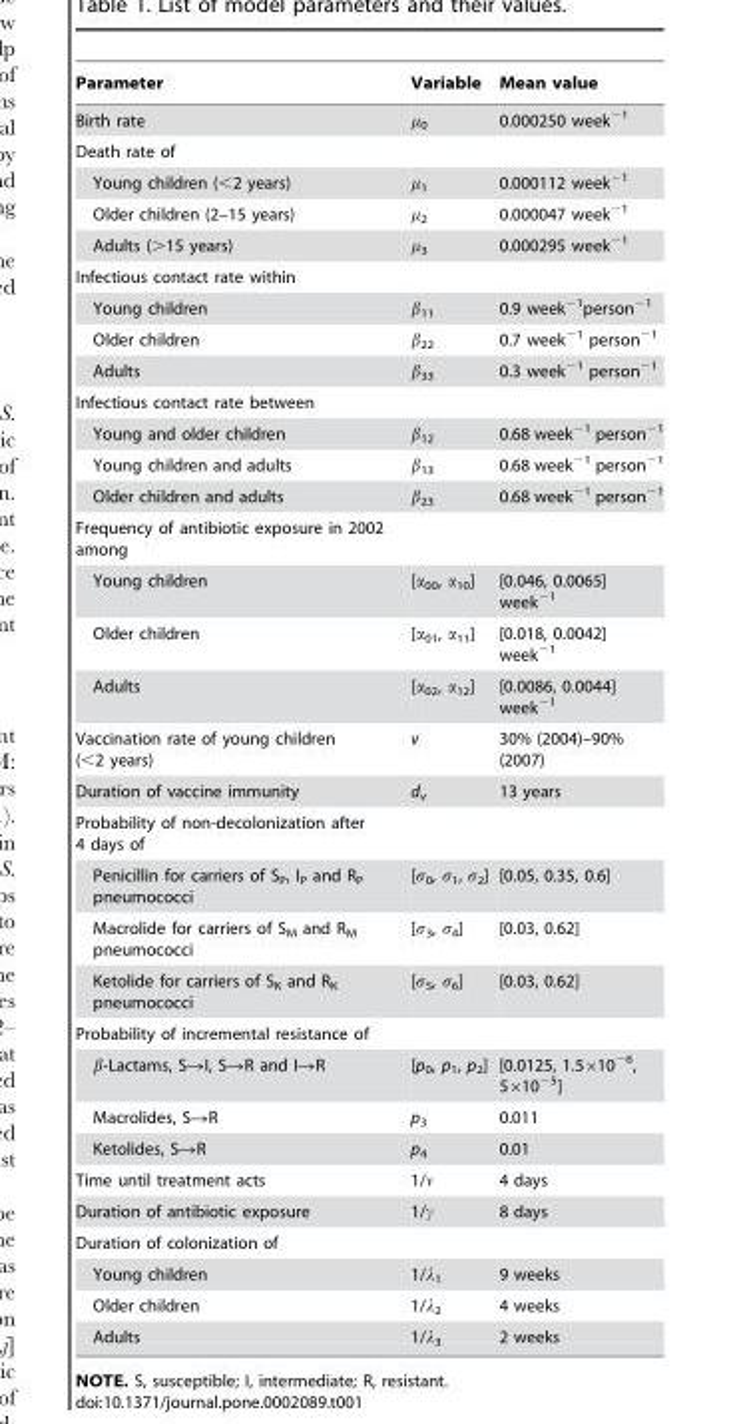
<table><thead><tr><td>Parameter</td><td>Variable</td><td>Mean value</td></tr></thead><tbody><tr><td>Birth rate</td><td>μ<sub>0</sub></td><td>0.000250 week<sup>−1</sup></td></tr><tr><td colspan="3">Death rate of</td></tr><tr><td>Young children (&lt;2 years)</td><td>μ<sub>1</sub></td><td>0.000112 week<sup>−1</sup></td></tr><tr><td>Older children (2–15 years)</td><td>μ<sub>2</sub></td><td>0.000047 week<sup>−1</sup></td></tr><tr><td>Adults (&gt;15 years)</td><td>μ<sub>3</sub></td><td>0.000295 week<sup>−1</sup></td></tr><tr><td colspan="3">Infectious contact rate within</td></tr><tr><td>Young children</td><td>β<sub>11</sub></td><td>0.9 week<sup>−1</sup>person<sup>−1</sup></td></tr><tr><td>Older children</td><td>β<sub>22</sub></td><td>0.7 week<sup>−1</sup> person<sup>−1</sup></td></tr><tr><td>Adults</td><td>β<sub>33</sub></td><td>0.3 week<sup>−1</sup> person<sup>−1</sup></td></tr><tr><td colspan="3">Infectious contact rate between</td></tr><tr><td>Young and older children</td><td>β<sub>12</sub></td><td>0.68 week<sup>−1</sup> person<sup>−1</sup></td></tr><tr><td>Young children and adults</td><td>β<sub>13</sub></td><td>0.68 week<sup>−1</sup> person<sup>−1</sup></td></tr><tr><td>Older children and adults</td><td>β<sub>23</sub></td><td>0.68 week<sup>−1</sup> person<sup>−1</sup></td></tr><tr><td colspan="3">Frequency of antibiotic exposure in 2002 among</td></tr><tr><td>Young children</td><td>[α<sub>00</sub>, α<sub>10</sub>]</td><td>[0.046, 0.0065] week<sup>−1</sup></td></tr><tr><td>Older children</td><td>[α<sub>01</sub>, α<sub>11</sub>]</td><td>[0.018, 0.0042] week<sup>−1</sup></td></tr><tr><td>Adults</td><td>[α<sub>02</sub>, α<sub>12</sub>]</td><td>[0.0086, 0.0044] week<sup>−1</sup></td></tr><tr><td>Vaccination rate of young children (&lt;2 years)</td><td>v</td><td>30% (2004)–90% (2007)</td></tr><tr><td>Duration of vaccine immunity</td><td>d<sub>v</sub></td><td>13 years</td></tr><tr><td colspan="3">Probability of non-decolonization after 4 days of</td></tr><tr><td>Penicillin for carriers of S<sub>P</sub>, I<sub>P</sub> and R<sub>P</sub> pneumococci</td><td>[σ<sub>0</sub>, σ<sub>1</sub>, σ<sub>2</sub>]</td><td>[0.05, 0.35, 0.6]</td></tr><tr><td>Macrolide for carriers of S<sub>M</sub> and R<sub>M</sub> pneumococci</td><td>[σ<sub>3</sub>, σ<sub>4</sub>]</td><td>[0.03, 0.62]</td></tr><tr><td>Ketolide for carriers of S<sub>K</sub> and R<sub>K</sub> pneumococci</td><td>[σ<sub>5</sub>, σ<sub>6</sub>]</td><td>[0.03, 0.62]</td></tr><tr><td colspan="3">Probability of incremental resistance of</td></tr><tr><td>β-Lactams, S→I, S→R and I→R</td><td>[p<sub>0</sub>, p<sub>1</sub>, p<sub>2</sub>]</td><td>[0.0125, 1.5×10<sup>−6</sup>, 5×10<sup>−5</sup>]</td></tr><tr><td>Macrolides, S→R</td><td>p<sub>3</sub></td><td>0.011</td></tr><tr><td>Ketolides, S→R</td><td>p<sub>4</sub></td><td>0.01</td></tr><tr><td>Time until treatment acts</td><td>1/ν</td><td>4 days</td></tr><tr><td>Duration of antibiotic exposure</td><td>1/γ</td><td>8 days</td></tr><tr><td colspan="3">Duration of colonization of</td></tr><tr><td>Young children</td><td>1/λ<sub>1</sub></td><td>9 weeks</td></tr><tr><td>Older children</td><td>1/λ<sub>2</sub></td><td>4 weeks</td></tr><tr><td>Adults</td><td>1/λ<sub>3</sub></td><td>2 weeks</td></tr></tbody></table>